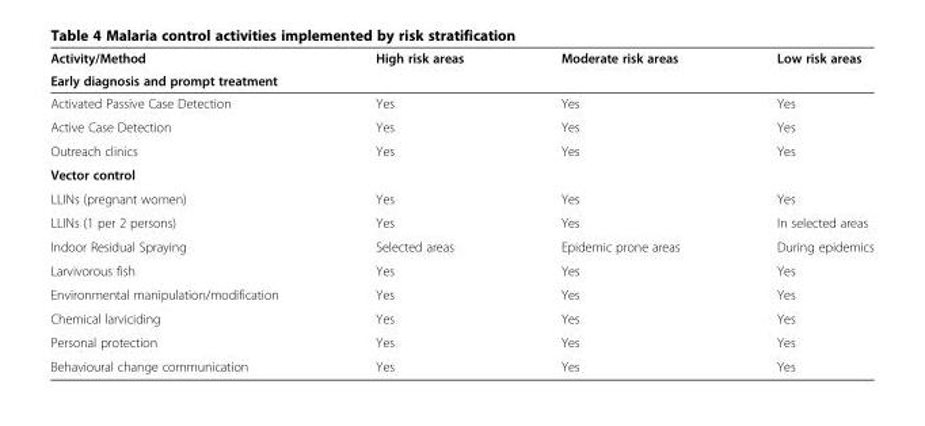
<table><thead><tr><td rowspan="2">Activity/Method Early diagnosis and prompt treatment</td><td rowspan="2">High risk areas</td><td rowspan="2">Moderate risk areas</td><td rowspan="2">Low risk areas</td></tr><tr></tr></thead><tbody><tr><td>Activated Passive Case Detection</td><td>Yes</td><td>Yes</td><td>Yes</td></tr><tr><td>Active Case Detection</td><td>Yes</td><td>Yes</td><td>Yes</td></tr><tr><td>Outreach clinics</td><td>Yes</td><td>Yes</td><td>Yes</td></tr><tr><td colspan="4">Vector control</td></tr><tr><td>LLINs (pregnant women)</td><td>Yes</td><td>Yes</td><td>Yes</td></tr><tr><td>LLINs (1 per 2 persons)</td><td>Yes</td><td>Yes</td><td>In selected areas</td></tr><tr><td>Indoor Residual Spraying</td><td>Selected areas</td><td>Epidemic prone areas</td><td>During epidemics</td></tr><tr><td>Larvivorous fish</td><td>Yes</td><td>Yes</td><td>Yes</td></tr><tr><td>Environmental manipulation/modification</td><td>Yes</td><td>Yes</td><td>Yes</td></tr><tr><td>Chemical larviciding</td><td>Yes</td><td>Yes</td><td>Yes</td></tr><tr><td>Personal protection</td><td>Yes</td><td>Yes</td><td>Yes</td></tr><tr><td>Behavioural change communication</td><td>Yes</td><td>Yes</td><td>Yes</td></tr></tbody></table>